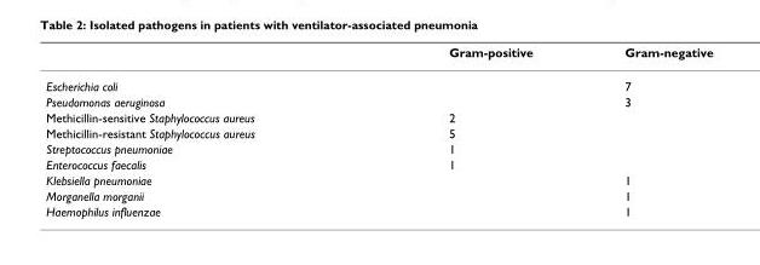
<table><thead><tr><td></td><td>Gram-positive</td><td>Gram-negative</td></tr></thead><tbody><tr><td>Escherichia coli</td><td></td><td>7</td></tr><tr><td>Pseudomonas aeruginosa</td><td></td><td>3</td></tr><tr><td>Methicillin-sensitive Staphylococcus aureus</td><td>2</td><td></td></tr><tr><td>Methicillin-resistant Staphylococcus aureus</td><td>5</td><td></td></tr><tr><td>Streptococcus pneumoniae</td><td>1</td><td></td></tr><tr><td>Enterococcus faecalis</td><td>1</td><td></td></tr><tr><td>Klebsiella pneumoniae</td><td></td><td>1</td></tr><tr><td>Morganella morganii</td><td></td><td>1</td></tr><tr><td>Haemophilus influenzae</td><td></td><td>1</td></tr></tbody></table>